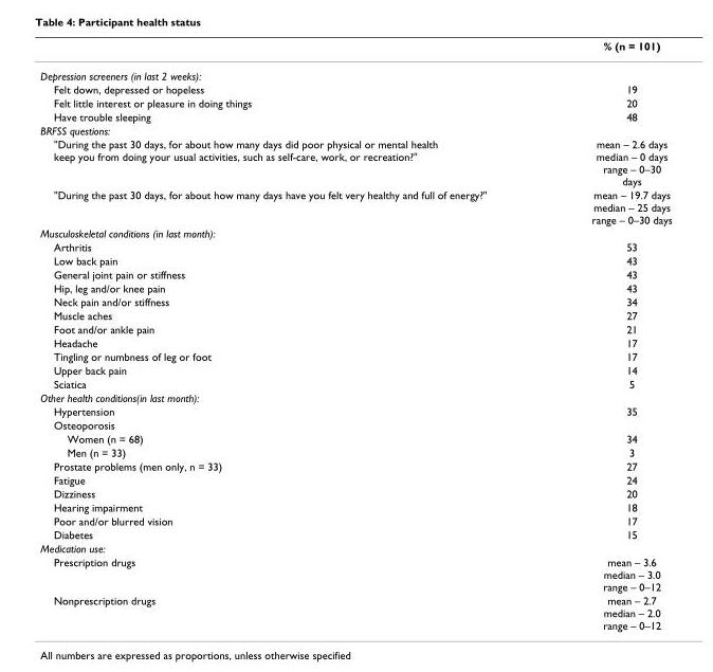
<table><thead><tr><td></td><td>% (n = 101)</td></tr></thead><tbody><tr><td colspan="2">Depression screeners (in last 2 weeks):</td></tr><tr><td>Felt down, depressed or hopeless</td><td>19</td></tr><tr><td>Felt little interest or pleasure in doing things</td><td>20</td></tr><tr><td>Have trouble sleeping</td><td>48</td></tr><tr><td colspan="2">BRFSS questions:</td></tr><tr><td>&quot;During the past 30 days, for about how many days did poor physical or mental health keep you from doing your usual activities, such as self-care, work, or recreation?&quot;</td><td>mean – 2.6 days median – 0 days range – 0–30 days</td></tr><tr><td>&quot;During the past 30 days, for about how many days have you felt very healthy and full of energy?&quot;</td><td>mean – 19.7 days median – 25 days range – 0–30 days</td></tr><tr><td colspan="2">Musculoskeletal conditions (in last month):</td></tr><tr><td>Arthritis</td><td>53</td></tr><tr><td>Low back pain</td><td>43</td></tr><tr><td>General joint pain or stiffness</td><td>43</td></tr><tr><td>Hip, leg and/or knee pain</td><td>43</td></tr><tr><td>Neck pain and/or stiffness</td><td>34</td></tr><tr><td>Muscle aches</td><td>27</td></tr><tr><td>Foot and/or ankle pain</td><td>21</td></tr><tr><td>Headache</td><td>17</td></tr><tr><td>Tingling or numbness of leg or foot</td><td>17</td></tr><tr><td>Upper back pain</td><td>14</td></tr><tr><td>Sciatica</td><td>5</td></tr><tr><td colspan="2">Other health conditions(in last month):</td></tr><tr><td>Hypertension</td><td>35</td></tr><tr><td colspan="2">Osteoporosis</td></tr><tr><td>Women (n = 68)</td><td>34</td></tr><tr><td>Men (n = 33)</td><td>3</td></tr><tr><td>Prostate problems (men only, n = 33)</td><td>27</td></tr><tr><td>Fatigue</td><td>24</td></tr><tr><td>Dizziness</td><td>20</td></tr><tr><td>Hearing impairment</td><td>18</td></tr><tr><td>Poor and/or blurred vision</td><td>17</td></tr><tr><td>Diabetes</td><td>15</td></tr><tr><td colspan="2">Medication use:</td></tr><tr><td>Prescription drugs</td><td>mean – 3.6 median – 3.0 range – 0–12</td></tr><tr><td>Nonprescription drugs</td><td>mean – 2.7 median – 2.0 range – 0–12</td></tr></tbody></table>